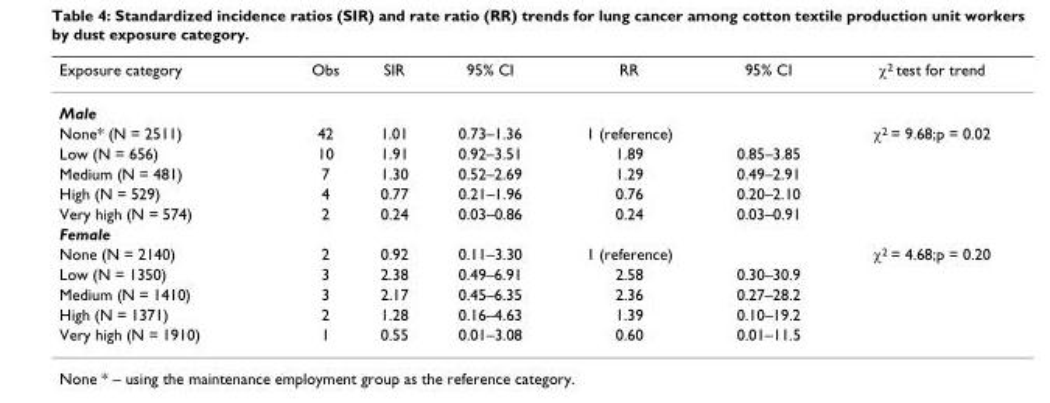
<table><thead><tr><td>Exposure category</td><td>Obs</td><td>SIR</td><td>95% CI</td><td>RR</td><td>95% CI</td><td>χ<sup>2</sup> test for trend</td></tr></thead><tbody><tr><td colspan="7">Male</td></tr><tr><td>None* (N = 2511)</td><td>42</td><td>1.01</td><td>0.73–1.36</td><td>1 (reference)</td><td></td><td>χ<sup>2</sup> = 9.68;p = 0.02</td></tr><tr><td>Low (N = 656)</td><td>10</td><td>1.91</td><td>0.92–3.51</td><td>1.89</td><td>0.85–3.85</td><td></td></tr><tr><td>Medium (N = 481)</td><td>7</td><td>1.30</td><td>0.52–2.69</td><td>1.29</td><td>0.49–2.91</td><td></td></tr><tr><td>High (N = 529)</td><td>4</td><td>0.77</td><td>0.21–1.96</td><td>0.76</td><td>0.20–2.10</td><td></td></tr><tr><td>Very high (N = 574)</td><td>2</td><td>0.24</td><td>0.03–0.86</td><td>0.24</td><td>0.03–0.91</td><td></td></tr><tr><td colspan="7">Female</td></tr><tr><td>None (N = 2140)</td><td>2</td><td>0.92</td><td>0.11–3.30</td><td>1 (reference)</td><td></td><td>χ<sup>2</sup> = 4.68;p = 0.20</td></tr><tr><td>Low (N = 1350)</td><td>3</td><td>2.38</td><td>0.49–6.91</td><td>2.58</td><td>0.30–30.9</td><td></td></tr><tr><td>Medium (N = 1410)</td><td>3</td><td>2.17</td><td>0.45–6.35</td><td>2.36</td><td>0.27–28.2</td><td></td></tr><tr><td>High (N = 1371)</td><td>2</td><td>1.28</td><td>0.16–4.63</td><td>1.39</td><td>0.10–19.2</td><td></td></tr><tr><td>Very high (N = 1910)</td><td>1</td><td>0.55</td><td>0.01–3.08</td><td>0.60</td><td>0.01–11.5</td><td></td></tr></tbody></table>